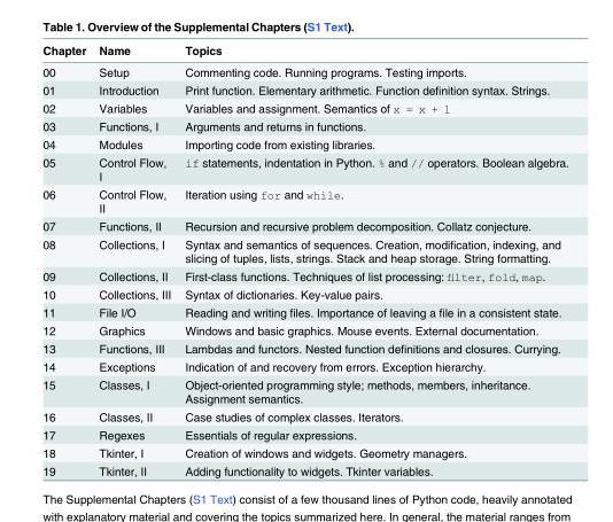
<table><thead><tr><td>Chapter</td><td>Name</td><td>Topics</td></tr></thead><tbody><tr><td>00</td><td>Setup</td><td>Commenting code. Running programs. Testing imports.</td></tr><tr><td>01</td><td>Introduction</td><td>Print function. Elementary arithmetic. Function definition syntax. Strings.</td></tr><tr><td>02</td><td>Variables</td><td>Variables and assignment. Semantics of x = x + 1</td></tr><tr><td>03</td><td>Functions, I</td><td>Arguments and returns in functions.</td></tr><tr><td>04</td><td>Modules</td><td>Importing code from existing libraries.</td></tr><tr><td>05</td><td>Control Flow, I</td><td>if statements, indentation in Python. % and // operators. Boolean algebra.</td></tr><tr><td>06</td><td>Control Flow, II</td><td>Iteration using for and while.</td></tr><tr><td>07</td><td>Functions, II</td><td>Recursion and recursive problem decomposition. Collatz conjecture.</td></tr><tr><td>08</td><td>Collections, I</td><td>Syntax and semantics of sequences. Creation, modification, indexing, and slicing of tuples, lists, strings. Stack and heap storage. String formatting.</td></tr><tr><td>09</td><td>Collections, II</td><td>First-class functions. Techniques of list processing: filter, fold, map.</td></tr><tr><td>10</td><td>Collections, III</td><td>Syntax of dictionaries. Key-value pairs.</td></tr><tr><td>11</td><td>File I/O</td><td>Reading and writing files. Importance of leaving a file in a consistent state.</td></tr><tr><td>12</td><td>Graphics</td><td>Windows and basic graphics. Mouse events. External documentation.</td></tr><tr><td>13</td><td>Functions, III</td><td>Lambdas and functors. Nested function definitions and closures. Currying.</td></tr><tr><td>14</td><td>Exceptions</td><td>Indication of and recovery from errors. Exception hierarchy.</td></tr><tr><td>15</td><td>Classes, I</td><td>Object-oriented programming style; methods, members, inheritance. Assignment semantics.</td></tr><tr><td>16</td><td>Classes, II</td><td>Case studies of complex classes. Iterators.</td></tr><tr><td>17</td><td>Regexes</td><td>Essentials of regular expressions.</td></tr><tr><td>18</td><td>Tkinter, I</td><td>Creation of windows and widgets. Geometry managers.</td></tr><tr><td>19</td><td>Tkinter, II</td><td>Adding functionality to widgets. Tkinter variables.</td></tr></tbody></table>